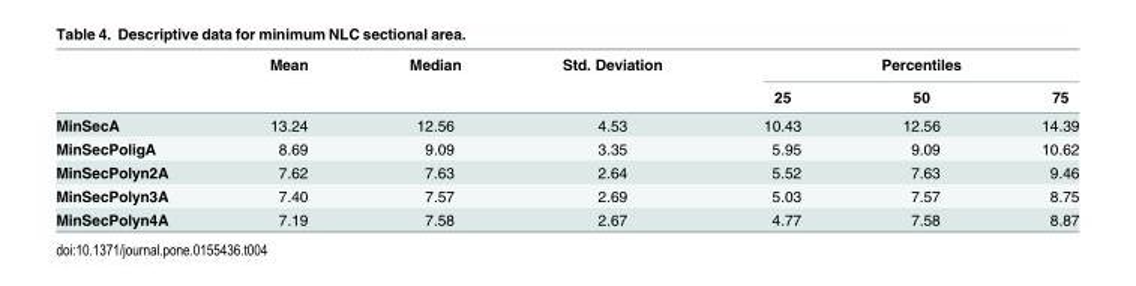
<table><thead><tr><td rowspan="2"></td><td rowspan="2">Mean</td><td rowspan="2">Median</td><td rowspan="2">Std. Deviation</td><td colspan="3">Percentiles</td></tr><tr><td>25</td><td>50</td><td>75</td></tr></thead><tbody><tr><td>MinSecA</td><td>13.24</td><td>12.56</td><td>4.53</td><td>10.43</td><td>12.56</td><td>14.39</td></tr><tr><td>MinSecPoligA</td><td>8.69</td><td>9.09</td><td>3.35</td><td>5.95</td><td>9.09</td><td>10.62</td></tr><tr><td>MinSecPolyn2A</td><td>7.62</td><td>7.63</td><td>2.64</td><td>5.52</td><td>7.63</td><td>9.46</td></tr><tr><td>MinSecPolyn3A</td><td>7.40</td><td>7.57</td><td>2.69</td><td>5.03</td><td>7.57</td><td>8.75</td></tr><tr><td>MinSecPolyn4A</td><td>7.19</td><td>7.58</td><td>2.67</td><td>4.77</td><td>7.58</td><td>8.87</td></tr></tbody></table>